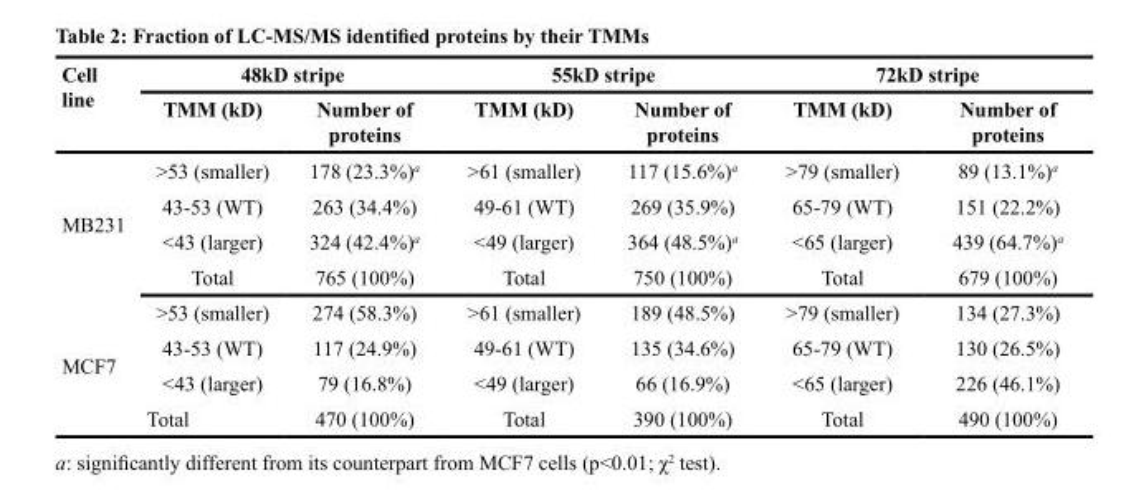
<table><thead><tr><td rowspan="2">Cell line</td><td colspan="2">48kD stripe</td><td colspan="2">55kD stripe</td><td colspan="2">72kD stripe</td></tr><tr><td>TMM (kD)</td><td>Number of proteins</td><td>TMM (kD)</td><td>Number of proteins</td><td>TMM (kD)</td><td>Number of proteins</td></tr></thead><tbody><tr><td rowspan="4">MB231</td><td>&gt;53 (smaller)</td><td>178 (23.3%)<sup>a</sup></td><td>&gt;61 (smaller)</td><td>117 (15.6%)<sup>a</sup></td><td>&gt;79 (smaller)</td><td>89 (13.1%)<sup>a</sup></td></tr><tr><td>43-53 (WT)</td><td>263 (34.4%)</td><td>49-61 (WT)</td><td>269 (35.9%)</td><td>65-79 (WT)</td><td>151 (22.2%)</td></tr><tr><td>&lt;43 (larger)</td><td>324 (42.4%)<sup>a</sup></td><td>&lt;49 (larger)</td><td>364 (48.5%)<sup>a</sup></td><td>&lt;65 (larger)</td><td>439 (64.7%)<sup>a</sup></td></tr><tr><td>Total</td><td>765 (100%)</td><td>Total</td><td>750 (100%)</td><td>Total</td><td>679 (100%)</td></tr><tr><td rowspan="4">MCF7</td><td>&gt;53 (smaller)</td><td>274 (58.3%)</td><td>&gt;61 (smaller)</td><td>189 (48.5%)</td><td>&gt;79 (smaller)</td><td>134 (27.3%)</td></tr><tr><td>43-53 (WT)</td><td>117 (24.9%)</td><td>49-61 (WT)</td><td>135 (34.6%)</td><td>65-79 (WT)</td><td>130 (26.5%)</td></tr><tr><td>&lt;43 (larger)</td><td>79 (16.8%)</td><td>&lt;49 (larger)</td><td>66 (16.9%)</td><td>&lt;65 (larger)</td><td>226 (46.1%)</td></tr><tr><td>Total</td><td>470 (100%)</td><td>Total</td><td>390 (100%)</td><td>Total</td><td>490 (100%)</td></tr></tbody></table>